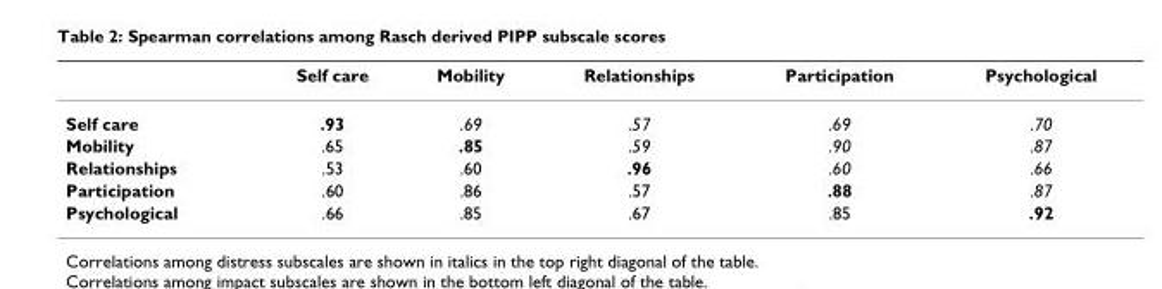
<table><thead><tr><td></td><td>Self care</td><td>Mobility</td><td>Relationships</td><td>Participation</td><td>Psychological</td></tr></thead><tbody><tr><td>Self care</td><td>.93</td><td>.69</td><td>.57</td><td>.69</td><td>.70</td></tr><tr><td>Mobility</td><td>.65</td><td>.85</td><td>.59</td><td>.90</td><td>.87</td></tr><tr><td>Relationships</td><td>.53</td><td>.60</td><td>.96</td><td>.60</td><td>.66</td></tr><tr><td>Participation</td><td>.60</td><td>.86</td><td>.57</td><td>.88</td><td>.87</td></tr><tr><td>Psychological</td><td>.66</td><td>.85</td><td>.67</td><td>.85</td><td>.92</td></tr></tbody></table>